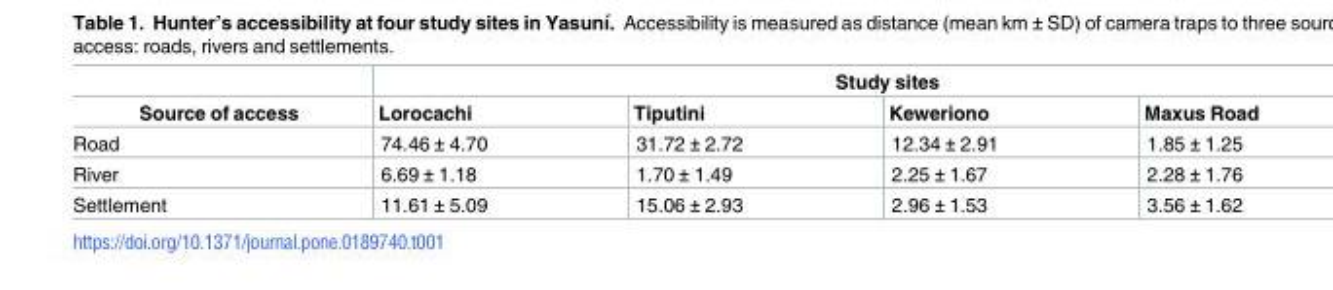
<table><thead><tr><td rowspan="2">Source of access</td><td colspan="4">Study sites</td></tr><tr><td>Lorocachi</td><td>Tiputini</td><td>Keweriono</td><td>Maxus Road</td></tr></thead><tbody><tr><td>Road</td><td>74.46 ± 4.70</td><td>31.72 ± 2.72</td><td>12.34 ± 2.91</td><td>1.85 ± 1.25</td></tr><tr><td>River</td><td>6.69 ± 1.18</td><td>1.70 ± 1.49</td><td>2.25 ± 1.67</td><td>2.28 ± 1.76</td></tr><tr><td>Settlement</td><td>11.61 ± 5.09</td><td>15.06 ± 2.93</td><td>2.96 ± 1.53</td><td>3.56 ± 1.62</td></tr></tbody></table>